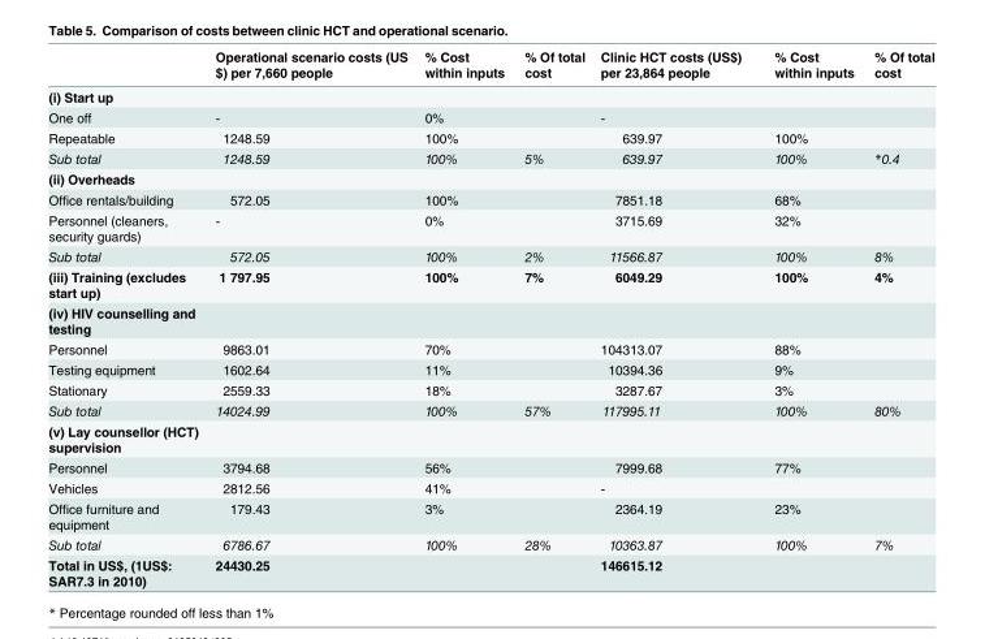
<table><thead><tr><td></td><td>Operational scenario costs (US $) per 7,660 people</td><td>% Cost within inputs</td><td>% Of total cost</td><td>Clinic HCT costs (US$) per 23,864 people</td><td>% Cost within inputs</td><td>% Of total cost</td></tr></thead><tbody><tr><td colspan="7">(i) Start up</td></tr><tr><td>One off</td><td>-</td><td>0%</td><td></td><td>-</td><td></td><td></td></tr><tr><td>Repeatable</td><td>1248.59</td><td>100%</td><td></td><td>639.97</td><td>100%</td><td></td></tr><tr><td>Sub total</td><td>1248.59</td><td>100%</td><td>5%</td><td>639.97</td><td>100%</td><td>*0.4</td></tr><tr><td colspan="7">(ii) Overheads</td></tr><tr><td>Office rentals/building</td><td>572.05</td><td>100%</td><td></td><td>7851.18</td><td>68%</td><td></td></tr><tr><td>Personnel (cleaners, security guards)</td><td>-</td><td>0%</td><td></td><td>3715.69</td><td>32%</td><td></td></tr><tr><td>Sub total</td><td>572.05</td><td>100%</td><td>2%</td><td>11566.87</td><td>100%</td><td>8%</td></tr><tr><td>(iii) Training (excludes start up)</td><td>1 797.95</td><td>100%</td><td>7%</td><td>6049.29</td><td>100%</td><td>4%</td></tr><tr><td colspan="7">(iv) HIV counselling and testing</td></tr><tr><td>Personnel</td><td>9863.01</td><td>70%</td><td></td><td>104313.07</td><td>88%</td><td></td></tr><tr><td>Testing equipment</td><td>1602.64</td><td>11%</td><td></td><td>10394.36</td><td>9%</td><td></td></tr><tr><td>Stationary</td><td>2559.33</td><td>18%</td><td></td><td>3287.67</td><td>3%</td><td></td></tr><tr><td>Sub total</td><td>14024.99</td><td>100%</td><td>57%</td><td>117995.11</td><td>100%</td><td>80%</td></tr><tr><td colspan="7">(v) Lay counsellor (HCT) supervision</td></tr><tr><td>Personnel</td><td>3794.68</td><td>56%</td><td></td><td>7999.68</td><td>77%</td><td></td></tr><tr><td>Vehicles</td><td>2812.56</td><td>41%</td><td></td><td>-</td><td></td><td></td></tr><tr><td>Office furniture and equipment</td><td>179.43</td><td>3%</td><td></td><td>2364.19</td><td>23%</td><td></td></tr><tr><td>Sub total</td><td>6786.67</td><td>100%</td><td>28%</td><td>10363.87</td><td>100%</td><td>7%</td></tr><tr><td>Total in US$, (1US$: SAR7.3 in 2010)</td><td>24430.25</td><td></td><td></td><td>146615.12</td><td></td><td></td></tr></tbody></table>